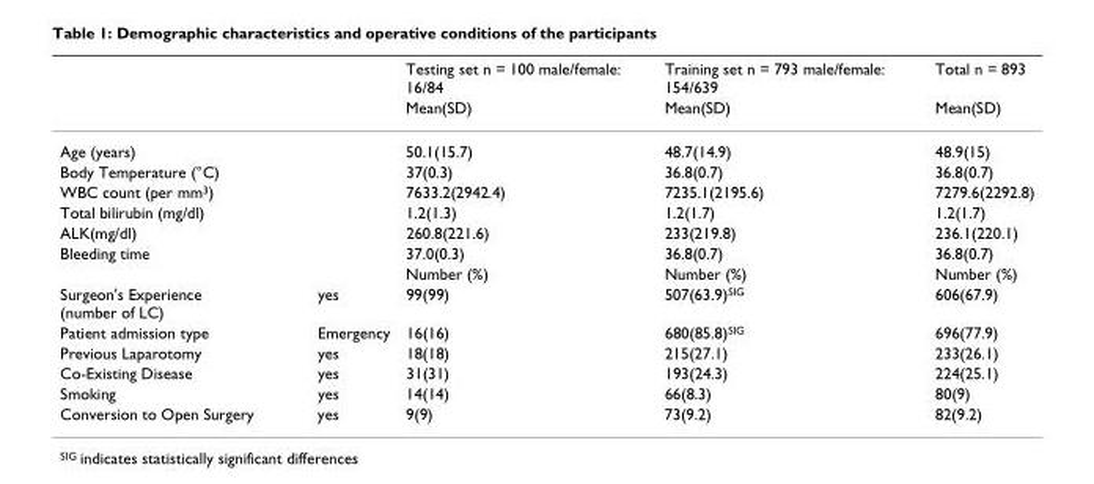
<table><thead><tr><td rowspan="2"></td><td rowspan="2"></td><td rowspan="2">Testing set n = 100 male/female: 16/84 Mean(SD)</td><td rowspan="2">Training set n = 793 male/female: 154/639 Mean(SD)</td><td rowspan="2">Total n = 893 Mean(SD)</td></tr><tr></tr></thead><tbody><tr><td>Age (years)</td><td></td><td>50.1(15.7)</td><td>48.7(14.9)</td><td>48.9(15)</td></tr><tr><td>Body Temperature (°C)</td><td></td><td>37(0.3)</td><td>36.8(0.7)</td><td>36.8(0.7)</td></tr><tr><td>WBC count (per mm<sup>3</sup>)</td><td></td><td>7633.2(2942.4)</td><td>7235.1(2195.6)</td><td>7279.6(2292.8)</td></tr><tr><td>Total bilirubin (mg/dl)</td><td></td><td>1.2(1.3)</td><td>1.2(1.7)</td><td>1.2(1.7)</td></tr><tr><td>ALK(mg/dl)</td><td></td><td>260.8(221.6)</td><td>233(219.8)</td><td>236.1(220.1)</td></tr><tr><td rowspan="2">Bleeding time</td><td></td><td>37.0(0.3)</td><td>36.8(0.7)</td><td>36.8(0.7)</td></tr><tr><td></td><td>Number (%)</td><td>Number (%)</td><td>Number (%)</td></tr><tr><td>Surgeon&#x27;s Experience (number of LC)</td><td>yes</td><td>99(99)</td><td>507(63.9)<sup>SIG</sup></td><td>606(67.9)</td></tr><tr><td>Patient admission type</td><td>Emergency</td><td>16(16)</td><td>680(85.8)<sup>SIG</sup></td><td>696(77.9)</td></tr><tr><td>Previous Laparotomy</td><td>yes</td><td>18(18)</td><td>215(27.1)</td><td>233(26.1)</td></tr><tr><td>Co-Existing Disease</td><td>yes</td><td>31(31)</td><td>193(24.3)</td><td>224(25.1)</td></tr><tr><td>Smoking</td><td>yes</td><td>14(14)</td><td>66(8.3)</td><td>80(9)</td></tr><tr><td>Conversion to Open Surgery</td><td>yes</td><td>9(9)</td><td>73(9.2)</td><td>82(9.2)</td></tr></tbody></table>